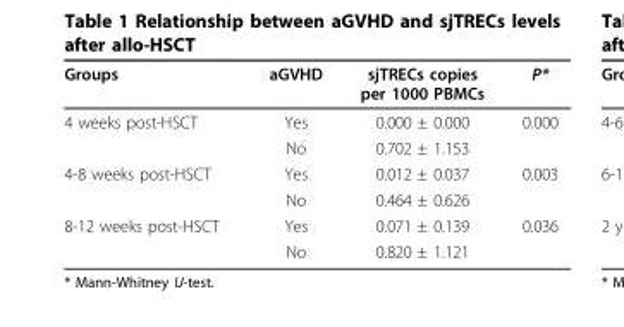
<table><thead><tr><td>Groups</td><td>aGVHD</td><td>sjTRECs copies per 1000 PBMCs</td><td>P*</td></tr></thead><tbody><tr><td rowspan="2">4 weeks post-HSCT</td><td>Yes</td><td>0.000 ± 0.000</td><td>0.000</td></tr><tr><td>No</td><td>0.702 ± 1.153</td><td></td></tr><tr><td rowspan="2">4-8 weeks post-HSCT</td><td>Yes</td><td>0.012 ± 0.037</td><td>0.003</td></tr><tr><td>No</td><td>0.464 ± 0.626</td><td></td></tr><tr><td rowspan="2">8-12 weeks post-HSCT</td><td>Yes</td><td>0.071 ± 0.139</td><td>0.036</td></tr><tr><td>No</td><td>0.820 ± 1.121</td><td></td></tr></tbody></table>